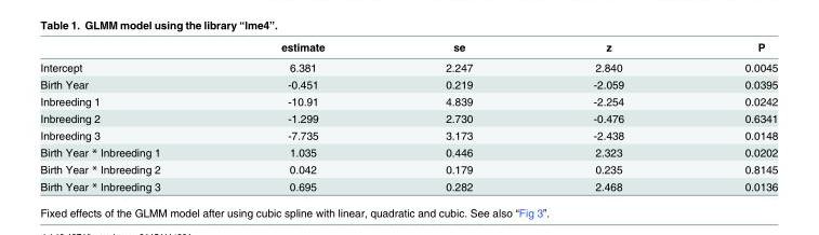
<table><thead><tr><td></td><td>estimate</td><td>se</td><td>z</td><td>P</td></tr></thead><tbody><tr><td>Intercept</td><td>6.381</td><td>2.247</td><td>2.840</td><td>0.0045</td></tr><tr><td>Birth Year</td><td>-0.451</td><td>0.219</td><td>-2.059</td><td>0.0395</td></tr><tr><td>Inbreeding 1</td><td>-10.91</td><td>4.839</td><td>-2.254</td><td>0.0242</td></tr><tr><td>Inbreeding 2</td><td>-1.299</td><td>2.730</td><td>-0.476</td><td>0.6341</td></tr><tr><td>Inbreeding 3</td><td>-7.735</td><td>3.173</td><td>-2.438</td><td>0.0148</td></tr><tr><td>Birth Year * Inbreeding 1</td><td>1.035</td><td>0.446</td><td>2.323</td><td>0.0202</td></tr><tr><td>Birth Year * Inbreeding 2</td><td>0.042</td><td>0.179</td><td>0.235</td><td>0.8145</td></tr><tr><td>Birth Year * Inbreeding 3</td><td>0.695</td><td>0.282</td><td>2.468</td><td>0.0136</td></tr></tbody></table>